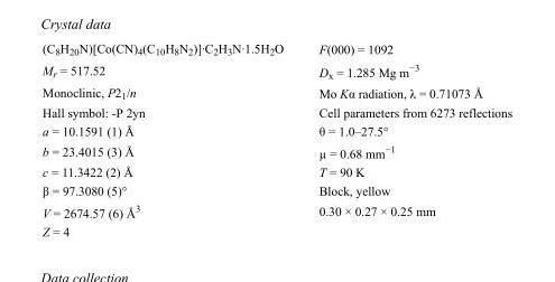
<table><tbody><tr><td>(C<sub>8</sub>H<sub>20</sub>N)[Co(CN)<sub>4</sub>(C<sub>10</sub>H<sub>8</sub>N<sub>2</sub>)]·C<sub>2</sub>H<sub>3</sub>N·1.5H<sub>2</sub>O</td><td>F(000) = 1092</td></tr><tr><td>M<sub>r</sub> = 517.52</td><td>D<sub>x</sub> = 1.285 Mg m<sup>−3</sup></td></tr><tr><td>Monoclinic, P2<sub>1</sub>/n</td><td>Mo Kα radiation, λ = 0.71073 Å</td></tr><tr><td>Hall symbol: -P 2yn</td><td>Cell parameters from 6273 reflections</td></tr><tr><td>a = 10.1591 (1) Å</td><td>θ = 1.0–27.5°</td></tr><tr><td>b = 23.4015 (3) Å</td><td>µ = 0.68 mm<sup>−1</sup></td></tr><tr><td>c = 11.3422 (2) Å</td><td>T = 90 K</td></tr><tr><td>β = 97.3080 (5)°</td><td>Block, yellow</td></tr><tr><td>V = 2674.57 (6) Å<sup>3</sup></td><td>0.30 × 0.27 × 0.25 mm</td></tr><tr><td>Z = 4</td><td></td></tr></tbody></table>